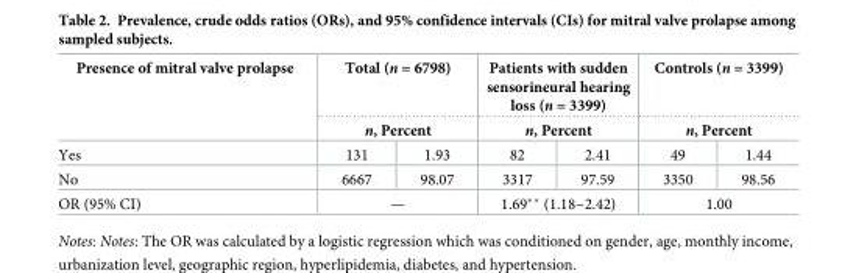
<table><thead><tr><td rowspan="3">Presence of mitral valve prolapse Yes</td><td rowspan="2" colspan="2">Total (n = 6798) n, Percent</td><td rowspan="2" colspan="2">Patients with sudden sensorineural hearing loss (n = 3399) n, Percent</td><td rowspan="2" colspan="2">Controls (n = 3399) n, Percent</td></tr><tr></tr><tr><td>131</td><td>1.93</td><td>82</td><td>2.41</td><td>49</td><td>1.44</td></tr></thead><tbody><tr><td>No</td><td>6667</td><td>98.07</td><td>3317</td><td>97.59</td><td>3350</td><td>98.56</td></tr><tr><td>OR (95% CI)</td><td colspan="2">—</td><td colspan="2">1.69** (1.18~2.42)</td><td colspan="2">1.00</td></tr></tbody></table>